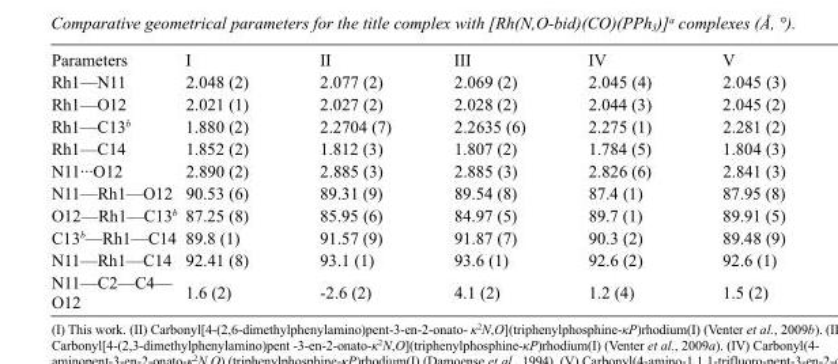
<table><tbody><tr><td>Parameters</td><td>I</td><td>II</td><td>III</td><td>IV</td><td>V</td></tr><tr><td>Rh1—N11</td><td>2.048 (2)</td><td>2.077 (2)</td><td>2.069 (2)</td><td>2.045 (4)</td><td>2.045 (3)</td></tr><tr><td>Rh1—O12</td><td>2.021 (1)</td><td>2.027 (2)</td><td>2.028 (2)</td><td>2.044 (3)</td><td>2.045 (2)</td></tr><tr><td>Rh1—C13<sup>b</sup></td><td>1.880 (2)</td><td>2.2704 (7)</td><td>2.2635 (6)</td><td>2.275 (1)</td><td>2.281 (2)</td></tr><tr><td>Rh1—C14</td><td>1.852 (2)</td><td>1.812 (3)</td><td>1.807 (2)</td><td>1.784 (5)</td><td>1.804 (3)</td></tr><tr><td>N11···O12</td><td>2.890 (2)</td><td>2.885 (3)</td><td>2.885 (3)</td><td>2.826 (6)</td><td>2.841 (3)</td></tr><tr><td>N11—Rh1—O12</td><td>90.53 (6)</td><td>89.31 (9)</td><td>89.54 (8)</td><td>87.4 (1)</td><td>87.95 (8)</td></tr><tr><td>O12—Rh1—C13<sup>b</sup></td><td>87.25 (8)</td><td>85.95 (6)</td><td>84.97 (5)</td><td>89.7 (1)</td><td>89.91 (5)</td></tr><tr><td>C13<sup>b</sup>—Rh1—C14</td><td>89.8 (1)</td><td>91.57 (9)</td><td>91.87 (7)</td><td>90.3 (2)</td><td>89.48 (9)</td></tr><tr><td>N11—Rh1—C14</td><td>92.41 (8)</td><td>93.1 (1)</td><td>93.6 (1)</td><td>92.6 (2)</td><td>92.6 (1)</td></tr><tr><td>N11—C2—C4— O12</td><td>1.6 (2)</td><td>-2.6 (2)</td><td>4.1 (2)</td><td>1.2 (4)</td><td>1.5 (2)</td></tr></tbody></table>